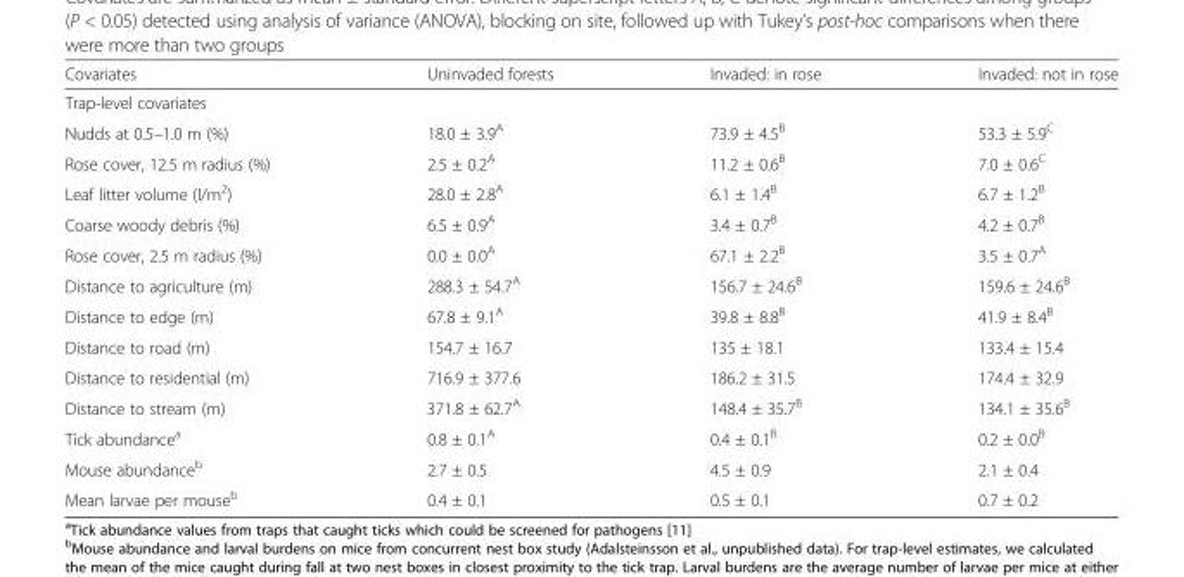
<table><thead><tr><td>Covariates</td><td>Uninvaded forests</td><td>Invaded: in rose</td><td>Invaded: not in rose</td></tr></thead><tbody><tr><td colspan="4">Trap-level covariates</td></tr><tr><td>Nudds at 0.5–1.0 m (%)</td><td>18.0 ± 3.9<sup>A</sup></td><td>73.9 ± 4.5<sup>B</sup></td><td>53.3 ± 5.9<sup>C</sup></td></tr><tr><td>Rose cover, 12.5 m radius (%)</td><td>2.5 ± 0.2<sup>A</sup></td><td>11.2 ± 0.6<sup>B</sup></td><td>7.0 ± 0.6<sup>C</sup></td></tr><tr><td>Leaf litter volume (l/m<sup>2</sup>)</td><td>28.0 ± 2.8<sup>A</sup></td><td>6.1 ± 1.4<sup>B</sup></td><td>6.7 ± 1.2<sup>B</sup></td></tr><tr><td>Coarse woody debris (%)</td><td>6.5 ± 0.9<sup>A</sup></td><td>3.4 ± 0.7<sup>B</sup></td><td>4.2 ± 0.7<sup>B</sup></td></tr><tr><td>Rose cover, 2.5 m radius (%)</td><td>0.0 ± 0.0<sup>A</sup></td><td>67.1 ± 2.2<sup>B</sup></td><td>3.5 ± 0.7<sup>A</sup></td></tr><tr><td>Distance to agriculture (m)</td><td>288.3 ± 54.7<sup>A</sup></td><td>156.7 ± 24.6<sup>B</sup></td><td>159.6 ± 24.6<sup>B</sup></td></tr><tr><td>Distance to edge (m)</td><td>67.8 ± 9.1<sup>A</sup></td><td>39.8 ± 8.8<sup>B</sup></td><td>41.9 ± 8.4<sup>B</sup></td></tr><tr><td>Distance to road (m)</td><td>154.7 ± 16.7</td><td>135 ± 18.1</td><td>133.4 ± 15.4</td></tr><tr><td>Distance to residential (m)</td><td>716.9 ± 377.6</td><td>186.2 ± 31.5</td><td>174.4 ± 32.9</td></tr><tr><td>Distance to stream (m)</td><td>371.8 ± 62.7<sup>A</sup></td><td>148.4 ± 35.7<sup>B</sup></td><td>134.1 ± 35.6<sup>B</sup></td></tr><tr><td>Tick abundance<sup>a</sup></td><td>0.8 ± 0.1<sup>A</sup></td><td>0.4 ± 0.1<sup>B</sup></td><td>0.2 ± 0.0<sup>B</sup></td></tr><tr><td>Mouse abundance<sup>b</sup></td><td>2.7 ± 0.5</td><td>4.5 ± 0.9</td><td>2.1 ± 0.4</td></tr><tr><td>Mean larvae per mouse<sup>b</sup></td><td>0.4 ± 0.1</td><td>0.5 ± 0.1</td><td>0.7 ± 0.2</td></tr></tbody></table>